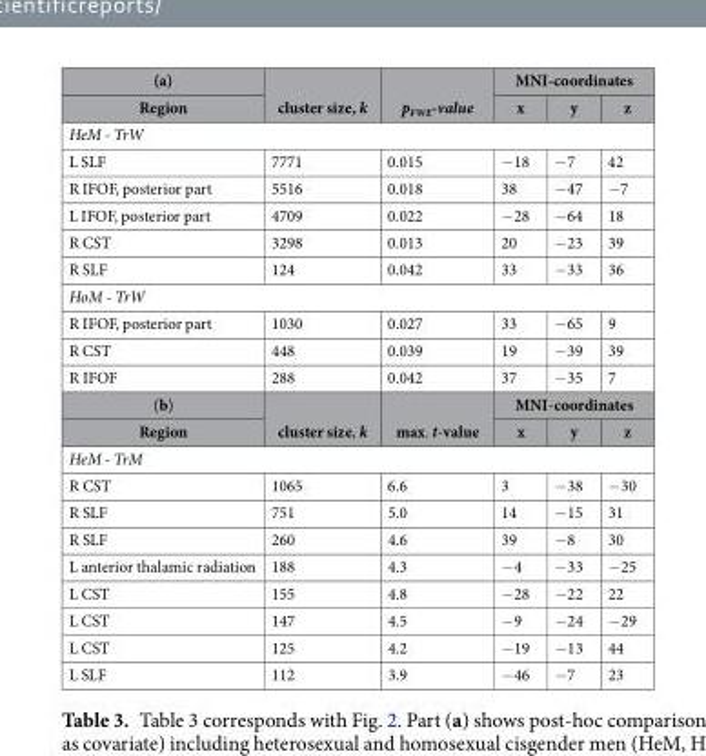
<table><thead><tr><td rowspan="2">(a) Region</td><td rowspan="2">cluster size, k</td><td rowspan="2">p<sub>FWE</sub>-value</td><td colspan="3">MNI-coordinates</td></tr><tr><td>x</td><td>y</td><td>z</td></tr></thead><tbody><tr><td colspan="6">HeM - TrW</td></tr><tr><td>L SLF</td><td>7771</td><td>0.015</td><td>−18</td><td>−7</td><td>42</td></tr><tr><td>R IFOF, posterior part</td><td>5516</td><td>0.018</td><td>38</td><td>−47</td><td>−7</td></tr><tr><td>L IFOF, posterior part</td><td>4709</td><td>0.022</td><td>−28</td><td>−64</td><td>18</td></tr><tr><td>R CST</td><td>3298</td><td>0.013</td><td>20</td><td>−23</td><td>39</td></tr><tr><td>R SLF</td><td>124</td><td>0.042</td><td>33</td><td>−33</td><td>36</td></tr><tr><td colspan="6">HoM - TrW</td></tr><tr><td>R IFOF, posterior part</td><td>1030</td><td>0.027</td><td>33</td><td>−65</td><td>9</td></tr><tr><td>R CST</td><td>448</td><td>0.039</td><td>19</td><td>−39</td><td>39</td></tr><tr><td>R IFOF</td><td>288</td><td>0.042</td><td>37</td><td>−35</td><td>7</td></tr><tr><td>(b)</td><td rowspan="2">cluster size, k</td><td rowspan="2">max. t-value</td><td colspan="3">MNI-coordinates</td></tr><tr><td>Region</td><td>x</td><td>y</td><td>z</td></tr><tr><td colspan="6">HeM - TrM</td></tr><tr><td>R CST</td><td>1065</td><td>6.6</td><td>3</td><td>−38</td><td>−30</td></tr><tr><td>R SLF</td><td>751</td><td>5.0</td><td>14</td><td>−15</td><td>31</td></tr><tr><td>R SLF</td><td>260</td><td>4.6</td><td>39</td><td>−8</td><td>30</td></tr><tr><td>L anterior thalamic radiation</td><td>188</td><td>4.3</td><td>−4</td><td>−33</td><td>−25</td></tr><tr><td>L CST</td><td>155</td><td>4.8</td><td>−28</td><td>−22</td><td>22</td></tr><tr><td>L CST</td><td>147</td><td>4.5</td><td>−9</td><td>−24</td><td>−29</td></tr><tr><td>L CST</td><td>125</td><td>4.2</td><td>−19</td><td>−13</td><td>44</td></tr><tr><td>L SLF</td><td>112</td><td>3.9</td><td>−46</td><td>−7</td><td>23</td></tr></tbody></table>